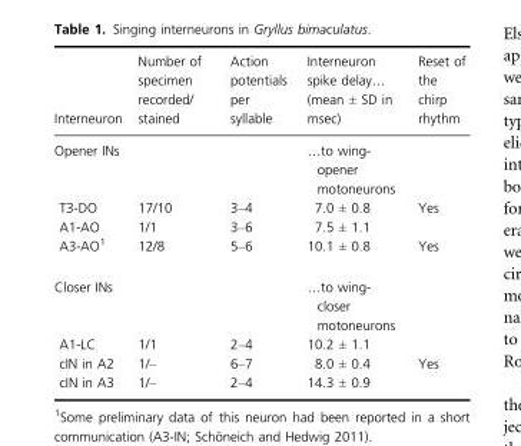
<table><thead><tr><td>Interneuron</td><td>Number of specimen recorded/ stained</td><td>Action potentials per syllable</td><td>Interneuron spike delay… (mean ± SD in msec)</td><td>Reset of the chirp rhythm</td></tr></thead><tbody><tr><td>Opener INs</td><td></td><td></td><td>…to wing- opener motoneurons</td><td></td></tr><tr><td>T3-DO</td><td>17/10</td><td>3–4</td><td>7.0 ± 0.8</td><td>Yes</td></tr><tr><td>A1-AO</td><td>1/1</td><td>3–6</td><td>7.5 ± 1.1</td><td></td></tr><tr><td>A3-AO<sup>1</sup></td><td>12/8</td><td>5–6</td><td>10.1 ± 0.8</td><td>Yes</td></tr><tr><td>Closer INs</td><td></td><td></td><td>…to wing- closer motoneurons</td><td></td></tr><tr><td>A1-LC</td><td>1/1</td><td>2–4</td><td>10.2 ± 1.1</td><td></td></tr><tr><td>cIN in A2</td><td>1/–</td><td>6–7</td><td>8.0 ± 0.4</td><td>Yes</td></tr><tr><td>cIN in A3</td><td>1/–</td><td>2–4</td><td>14.3 ± 0.9</td><td></td></tr></tbody></table>